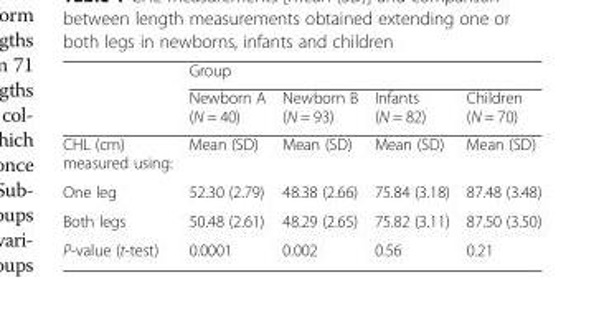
<table><thead><tr><td rowspan="2"></td><td colspan="4">Group</td></tr><tr><td>Newborn A (N = 40)</td><td>Newborn B (N = 93)</td><td>Infants (N = 82)</td><td>Children (N = 70)</td></tr></thead><tbody><tr><td>CHL (cm) measured using:</td><td>Mean (SD)</td><td>Mean (SD)</td><td>Mean (SD)</td><td>Mean (SD)</td></tr><tr><td>One leg</td><td>52.30 (2.79)</td><td>48.38 (2.66)</td><td>75.84 (3.18)</td><td>87.48 (3.48)</td></tr><tr><td>Both legs</td><td>50.48 (2.61)</td><td>48.29 (2.65)</td><td>75.82 (3.11)</td><td>87.50 (3.50)</td></tr><tr><td>P-value (t-test)</td><td>0.0001</td><td>0.002</td><td>0.56</td><td>0.21</td></tr></tbody></table>